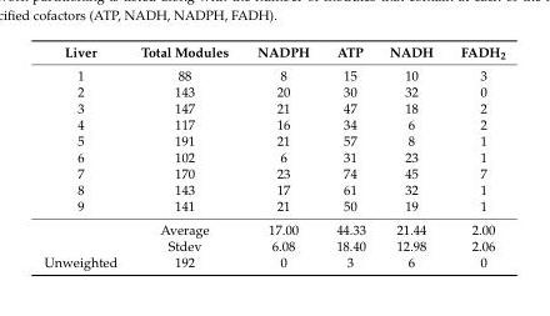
<table><thead><tr><td>Liver</td><td>Total Modules</td><td>NADPH</td><td>ATP</td><td>NADH</td><td>FADH<sub>2</sub></td></tr></thead><tbody><tr><td>1</td><td>88</td><td>8</td><td>15</td><td>10</td><td>3</td></tr><tr><td>2</td><td>143</td><td>20</td><td>30</td><td>32</td><td>0</td></tr><tr><td>3</td><td>147</td><td>21</td><td>47</td><td>18</td><td>2</td></tr><tr><td>4</td><td>117</td><td>16</td><td>34</td><td>6</td><td>2</td></tr><tr><td>5</td><td>191</td><td>21</td><td>57</td><td>8</td><td>1</td></tr><tr><td>6</td><td>102</td><td>6</td><td>31</td><td>23</td><td>1</td></tr><tr><td>7</td><td>170</td><td>23</td><td>74</td><td>45</td><td>7</td></tr><tr><td>8</td><td>143</td><td>17</td><td>61</td><td>32</td><td>1</td></tr><tr><td rowspan="3">9</td><td>141</td><td>21</td><td>50</td><td>19</td><td>1</td></tr><tr><td>Average</td><td>17.00</td><td>44.33</td><td>21.44</td><td>2.00</td></tr><tr><td>Stdev</td><td>6.08</td><td>18.40</td><td>12.98</td><td>2.06</td></tr><tr><td>Unweighted</td><td>192</td><td>0</td><td>3</td><td>6</td><td>0</td></tr></tbody></table>